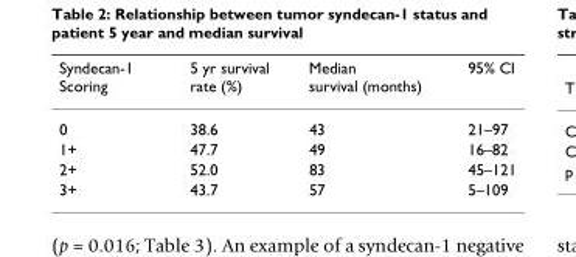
<table><thead><tr><td>Syndecan-1 Scoring</td><td>5 yr survival rate (%)</td><td>Median survival (months)</td><td>95% CI</td></tr></thead><tbody><tr><td>0</td><td>38.6</td><td>43</td><td>21–97</td></tr><tr><td>1+</td><td>47.7</td><td>49</td><td>16–82</td></tr><tr><td>2+</td><td>52.0</td><td>83</td><td>45–121</td></tr><tr><td>3+</td><td>43.7</td><td>57</td><td>5–109</td></tr></tbody></table>